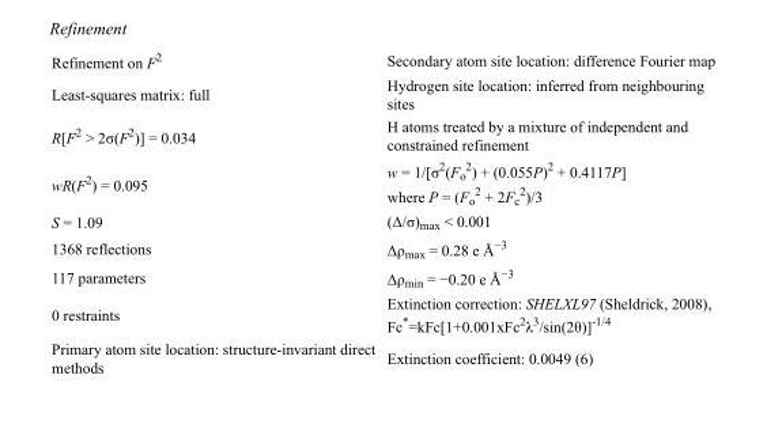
<table><tbody><tr><td>Refinement on F<sup>2</sup></td><td>Secondary atom site location: difference Fourier map</td></tr><tr><td>Least-squares matrix: full</td><td>Hydrogen site location: inferred from neighbouring sites</td></tr><tr><td>R[F<sup>2</sup> &gt; 2σ(F<sup>2</sup>)] = 0.034</td><td>H atoms treated by a mixture of independent and constrained refinement</td></tr><tr><td>wR(F<sup>2</sup>) = 0.095</td><td>w = 1/[σ<sup>2</sup>(F<sub>o</sub> <sup>2</sup>) + (0.055P)<sup>2</sup> + 0.4117P] where P = (F<sub>o</sub> <sup>2</sup> + 2F<sub>c</sub> <sup>2</sup>)/3</td></tr><tr><td>S = 1.09</td><td>(Δ/σ)<sub>max</sub> &lt; 0.001</td></tr><tr><td>1368 reflections</td><td>Δρ<sub>max</sub> = 0.28 e Å<sup>−3</sup></td></tr><tr><td>117 parameters</td><td>Δρ<sub>min</sub> = −0.20 e Å<sup>−3</sup></td></tr><tr><td>0 restraints</td><td>Extinction correction: SHELXL97 (Sheldrick, 2008), Fc*=kFc[1+0.001xFc<sup>2</sup>λ<sup>3</sup>/sin(2θ)]<sup>-1/4</sup></td></tr><tr><td>Primary atom site location: structure-invariant direct methods</td><td>Extinction coefficient: 0.0049 (6)</td></tr></tbody></table>